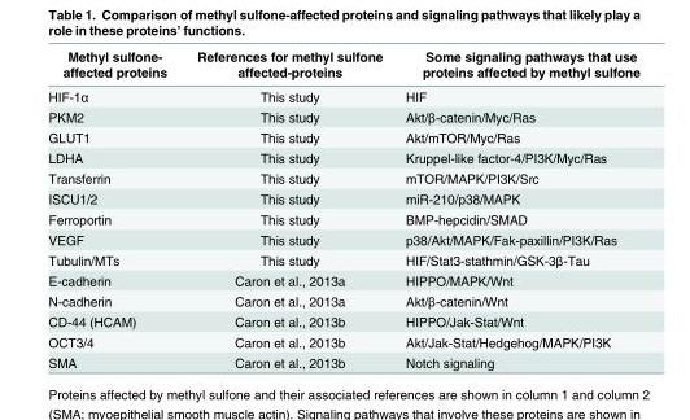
<table><thead><tr><td>Methyl sulfone- affected proteins</td><td>References for methyl sulfone affected-proteins</td><td>Some signaling pathways that use proteins affected by methyl sulfone</td></tr></thead><tbody><tr><td>HIF-1α</td><td>This study</td><td>● HIF</td></tr><tr><td>PKM2</td><td>This study</td><td>● Akt/β-catenin/Myc/Ras</td></tr><tr><td>GLUT1</td><td>This study</td><td>● Akt/mTOR/Myc/Ras</td></tr><tr><td>LDHA</td><td>This study</td><td>● Kruppel-like factor-4/PI3K/Myc/Ras</td></tr><tr><td>Transferrin</td><td>This study</td><td>● mTOR/MAPK/PI3K/Src</td></tr><tr><td>ISCU1/2</td><td>This study</td><td>● miR-210/p38/MAPK</td></tr><tr><td>Ferroportin</td><td>This study</td><td>● BMP-hepcidin/SMAD</td></tr><tr><td>VEGF</td><td>This study</td><td>● p38/Akt/MAPK/Fak-paxillin/PI3K/Ras</td></tr><tr><td>Tubulin/MTs</td><td>This study</td><td>● HIF/Stat3-stathmin/GSK-3β-Tau</td></tr><tr><td>E-cadherin</td><td>Caron et al., 2013a</td><td>● HIPPO/MAPK/Wnt</td></tr><tr><td>N-cadherin</td><td>Caron et al., 2013a</td><td>● Akt/β-catenin/Wnt</td></tr><tr><td>CD-44 (HCAM)</td><td>Caron et al., 2013b</td><td>● HIPPO/Jak-Stat/Wnt</td></tr><tr><td>OCT3/4</td><td>Caron et al., 2013b</td><td>● Akt/Jak-Stat/Hedgehog/MAPK/PI3K</td></tr><tr><td>SMA</td><td>Caron et al., 2013b</td><td>● Notch signaling</td></tr></tbody></table>